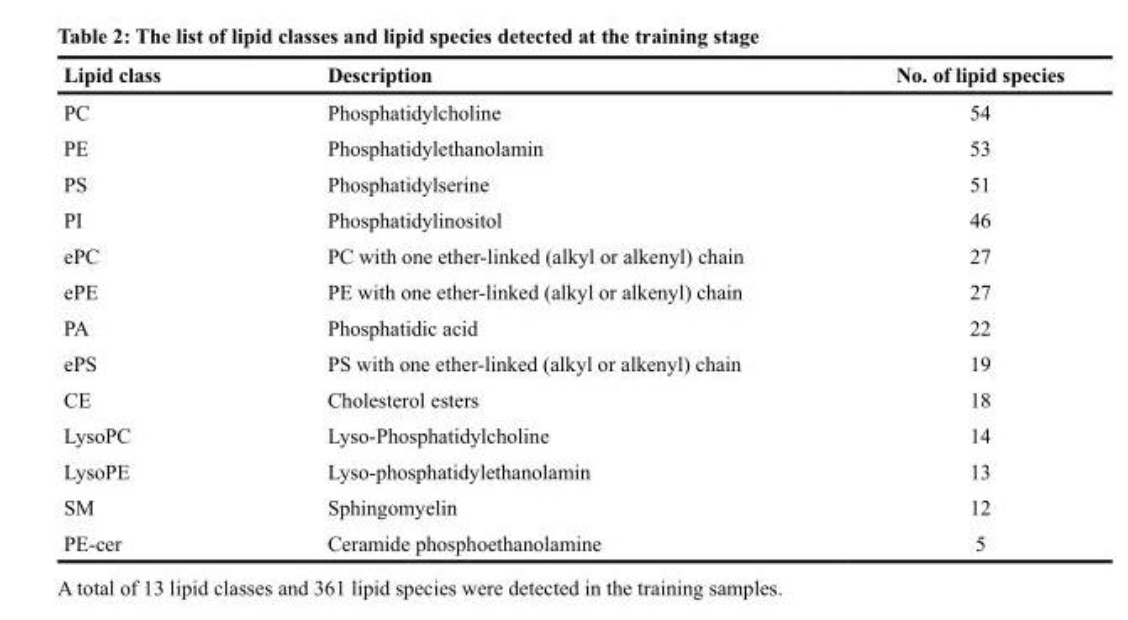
<table><thead><tr><td>Lipid class</td><td>Description</td><td>No. of lipid species</td></tr></thead><tbody><tr><td>PC</td><td>Phosphatidylcholine</td><td>54</td></tr><tr><td>PE</td><td>Phosphatidylethanolamin</td><td>53</td></tr><tr><td>PS</td><td>Phosphatidylserine</td><td>51</td></tr><tr><td>PI</td><td>Phosphatidylinositol</td><td>46</td></tr><tr><td>ePC</td><td>PC with one ether-linked (alkyl or alkenyl) chain</td><td>27</td></tr><tr><td>ePE</td><td>PE with one ether-linked (alkyl or alkenyl) chain</td><td>27</td></tr><tr><td>PA</td><td>Phosphatidic acid</td><td>22</td></tr><tr><td>ePS</td><td>PS with one ether-linked (alkyl or alkenyl) chain</td><td>19</td></tr><tr><td>CE</td><td>Cholesterol esters</td><td>18</td></tr><tr><td>LysoPC</td><td>Lyso-Phosphatidylcholine</td><td>14</td></tr><tr><td>LysoPE</td><td>Lyso-phosphatidylethanolamin</td><td>13</td></tr><tr><td>SM</td><td>Sphingomyelin</td><td>12</td></tr><tr><td>PE-cer</td><td>Ceramide phosphoethanolamine</td><td>5</td></tr></tbody></table>